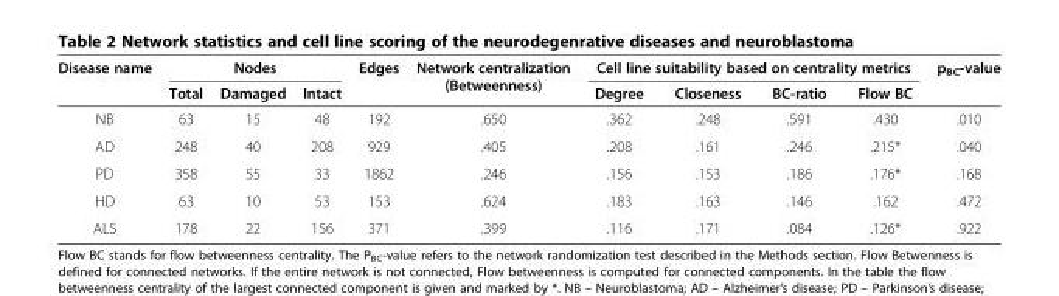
<table><thead><tr><td rowspan="2">Disease name</td><td colspan="3">Nodes</td><td rowspan="2">Edges</td><td rowspan="2">Network centralization (Betweenness)</td><td colspan="4">Cell line suitability based on centrality metrics</td><td rowspan="2">p<sub>BC</sub>-value</td></tr><tr><td>Total</td><td>Damaged</td><td>Intact</td><td>Degree</td><td>Closeness</td><td>BC-ratio</td><td>Flow BC</td></tr></thead><tbody><tr><td>NB</td><td>63</td><td>15</td><td>48</td><td>192</td><td>.650</td><td>.362</td><td>.248</td><td>.591</td><td>.430</td><td>.010</td></tr><tr><td>AD</td><td>248</td><td>40</td><td>208</td><td>929</td><td>.405</td><td>.208</td><td>.161</td><td>.246</td><td>.215*</td><td>.040</td></tr><tr><td>PD</td><td>358</td><td>55</td><td>33</td><td>1862</td><td>.246</td><td>.156</td><td>.153</td><td>.186</td><td>.176*</td><td>.168</td></tr><tr><td>HD</td><td>63</td><td>10</td><td>53</td><td>153</td><td>.624</td><td>.183</td><td>.163</td><td>.146</td><td>.162</td><td>.472</td></tr><tr><td>ALS</td><td>178</td><td>22</td><td>156</td><td>371</td><td>.399</td><td>.116</td><td>.171</td><td>.084</td><td>.126*</td><td>.922</td></tr></tbody></table>